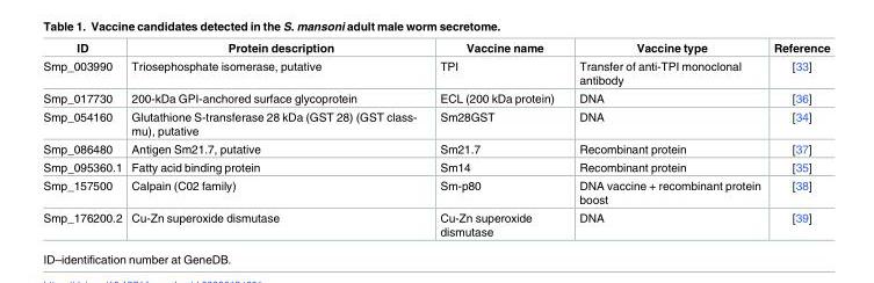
<table><thead><tr><td>ID</td><td>Protein description</td><td>Vaccine name</td><td>Vaccine type</td><td>Reference</td></tr></thead><tbody><tr><td>Smp_003990</td><td>Triosephosphate isomerase, putative</td><td>TPI</td><td>Transfer of anti-TPI monoclonal antibody</td><td>[33]</td></tr><tr><td>Smp_017730</td><td>200-kDa GPI-anchored surface glycoprotein</td><td>ECL (200 kDa protein)</td><td>DNA</td><td>[36]</td></tr><tr><td>Smp_054160</td><td>Glutathione S-transferase 28 kDa (GST 28) (GST class- mu), putative</td><td>Sm28GST</td><td>DNA</td><td>[34]</td></tr><tr><td>Smp_086480</td><td>Antigen Sm21.7, putative</td><td>Sm21.7</td><td>Recombinant protein</td><td>[37]</td></tr><tr><td>Smp_095360.1</td><td>Fatty acid binding protein</td><td>Sm14</td><td>Recombinant protein</td><td>[35]</td></tr><tr><td>Smp_157500</td><td>Calpain (C02 family)</td><td>Sm-p80</td><td>DNA vaccine + recombinant protein boost</td><td>[38]</td></tr><tr><td>Smp_176200.2</td><td>Cu-Zn superoxide dismutase</td><td>Cu-Zn superoxide dismutase</td><td>DNA</td><td>[39]</td></tr></tbody></table>